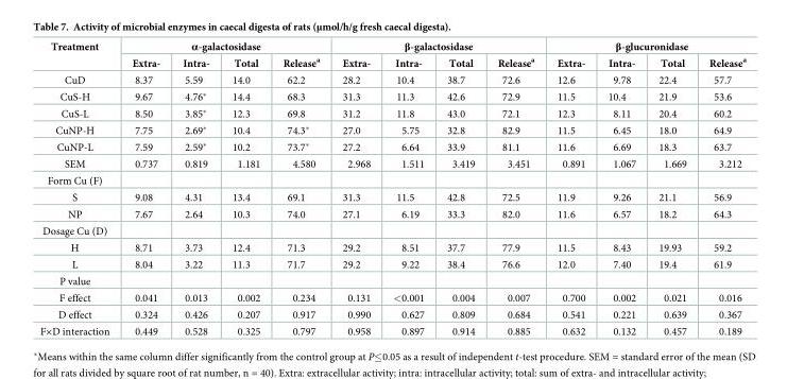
<table><thead><tr><td rowspan="2">Treatment</td><td colspan="4">α-galactosidase</td><td colspan="4">β-galactosidase</td><td colspan="4">β-glucuronidase</td></tr><tr><td>Extra-</td><td>Intra-</td><td>Total</td><td>Release<sup>a</sup></td><td>Extra-</td><td>Intra-</td><td>Total</td><td>Release<sup>a</sup></td><td>Extra-</td><td>Intra-</td><td>Total</td><td>Release<sup>a</sup></td></tr></thead><tbody><tr><td>CuD</td><td>8.37</td><td>5.59</td><td>14.0</td><td>62.2</td><td>28.2</td><td>10.4</td><td>38.7</td><td>72.6</td><td>12.6</td><td>9.78</td><td>22.4</td><td>57.7</td></tr><tr><td>CuS-H</td><td>9.67</td><td>4.76*</td><td>14.4</td><td>68.3</td><td>31.3</td><td>11.3</td><td>42.6</td><td>72.9</td><td>11.5</td><td>10.4</td><td>21.9</td><td>53.6</td></tr><tr><td>CuS-L</td><td>8.50</td><td>3.85*</td><td>12.3</td><td>69.8</td><td>31.2</td><td>11.8</td><td>43.0</td><td>72.1</td><td>12.3</td><td>8.11</td><td>20.4</td><td>60.2</td></tr><tr><td>CuNP-H</td><td>7.75</td><td>2.69*</td><td>10.4</td><td>74.3*</td><td>27.0</td><td>5.75</td><td>32.8</td><td>82.9</td><td>11.5</td><td>6.45</td><td>18.0</td><td>64.9</td></tr><tr><td>CuNP-L</td><td>7.59</td><td>2.59*</td><td>10.2</td><td>73.7*</td><td>27.2</td><td>6.64</td><td>33.9</td><td>81.1</td><td>11.6</td><td>6.69</td><td>18.3</td><td>63.7</td></tr><tr><td>SEM</td><td>0.737</td><td>0.819</td><td>1.181</td><td>4.580</td><td>2.968</td><td>1.511</td><td>3.419</td><td>3.451</td><td>0.891</td><td>1.067</td><td>1.669</td><td>3.212</td></tr><tr><td colspan="13">Form Cu (F)</td></tr><tr><td>S</td><td>9.08</td><td>4.31</td><td>13.4</td><td>69.1</td><td>31.3</td><td>11.5</td><td>42.8</td><td>72.5</td><td>11.9</td><td>9.26</td><td>21.1</td><td>56.9</td></tr><tr><td>NP</td><td>7.67</td><td>2.64</td><td>10.3</td><td>74.0</td><td>27.1</td><td>6.19</td><td>33.3</td><td>82.0</td><td>11.6</td><td>6.57</td><td>18.2</td><td>64.3</td></tr><tr><td colspan="13">Dosage Cu (D)</td></tr><tr><td>H</td><td>8.71</td><td>3.73</td><td>12.4</td><td>71.3</td><td>29.2</td><td>8.51</td><td>37.7</td><td>77.9</td><td>11.5</td><td>8.43</td><td>19.93</td><td>59.2</td></tr><tr><td>L</td><td>8.04</td><td>3.22</td><td>11.3</td><td>71.7</td><td>29.2</td><td>9.22</td><td>38.4</td><td>76.6</td><td>12.0</td><td>7.40</td><td>19.4</td><td>61.9</td></tr><tr><td colspan="13">P value</td></tr><tr><td>F effect</td><td>0.041</td><td>0.013</td><td>0.002</td><td>0.234</td><td>0.131</td><td>&lt;0.001</td><td>0.004</td><td>0.007</td><td>0.700</td><td>0.002</td><td>0.021</td><td>0.016</td></tr><tr><td>D effect</td><td>0.324</td><td>0.426</td><td>0.207</td><td>0.917</td><td>0.990</td><td>0.627</td><td>0.809</td><td>0.684</td><td>0.541</td><td>0.221</td><td>0.639</td><td>0.367</td></tr><tr><td>F×D interaction</td><td>0.449</td><td>0.528</td><td>0.325</td><td>0.797</td><td>0.958</td><td>0.897</td><td>0.914</td><td>0.885</td><td>0.632</td><td>0.132</td><td>0.457</td><td>0.189</td></tr></tbody></table>